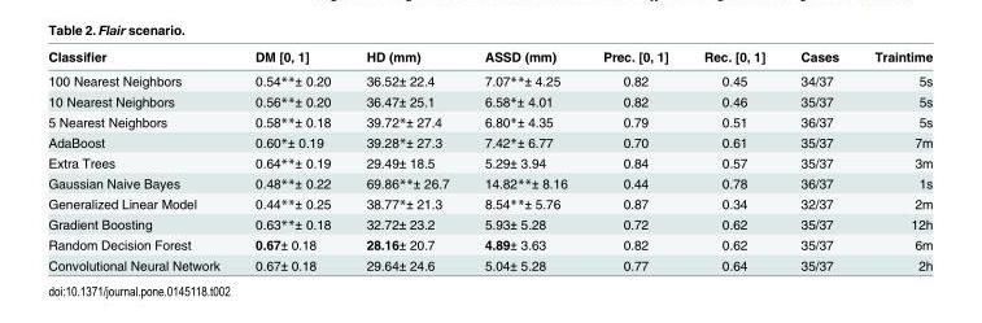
<table><thead><tr><td>Classifier</td><td>DM [0, 1]</td><td>HD (mm)</td><td>ASSD (mm)</td><td>Prec. [0, 1]</td><td>Rec. [0, 1]</td><td>Cases</td><td>Traintime</td></tr></thead><tbody><tr><td>100 Nearest Neighbors</td><td>0.54**± 0.20</td><td>36.52± 22.4</td><td>7.07**± 4.25</td><td>0.82</td><td>0.45</td><td>34/37</td><td>5s</td></tr><tr><td>10 Nearest Neighbors</td><td>0.56**± 0.20</td><td>36.47± 25.1</td><td>6.58*± 4.01</td><td>0.82</td><td>0.46</td><td>35/37</td><td>5s</td></tr><tr><td>5 Nearest Neighbors</td><td>0.58**± 0.18</td><td>39.72*± 27.4</td><td>6.80*± 4.35</td><td>0.79</td><td>0.51</td><td>36/37</td><td>5s</td></tr><tr><td>AdaBoost</td><td>0.60*± 0.19</td><td>39.28*± 27.3</td><td>7.42*± 6.77</td><td>0.70</td><td>0.61</td><td>35/37</td><td>7m</td></tr><tr><td>Extra Trees</td><td>0.64**± 0.19</td><td>29.49± 18.5</td><td>5.29± 3.94</td><td>0.84</td><td>0.57</td><td>35/37</td><td>3m</td></tr><tr><td>Gaussian Naive Bayes</td><td>0.48**± 0.22</td><td>69.86**± 26.7</td><td>14.82**± 8.16</td><td>0.44</td><td>0.78</td><td>36/37</td><td>1s</td></tr><tr><td>Generalized Linear Model</td><td>0.44**± 0.25</td><td>38.77*± 21.3</td><td>8.54**± 5.76</td><td>0.87</td><td>0.34</td><td>32/37</td><td>2m</td></tr><tr><td>Gradient Boosting</td><td>0.63**± 0.18</td><td>32.72± 23.2</td><td>5.93± 5.28</td><td>0.72</td><td>0.62</td><td>35/37</td><td>12h</td></tr><tr><td>Random Decision Forest</td><td>0.67± 0.18</td><td>28.16± 20.7</td><td>4.89± 3.63</td><td>0.82</td><td>0.62</td><td>35/37</td><td>6m</td></tr><tr><td>Convolutional Neural Network</td><td>0.67± 0.18</td><td>29.64± 24.6</td><td>5.04± 5.28</td><td>0.77</td><td>0.64</td><td>35/37</td><td>2h</td></tr></tbody></table>